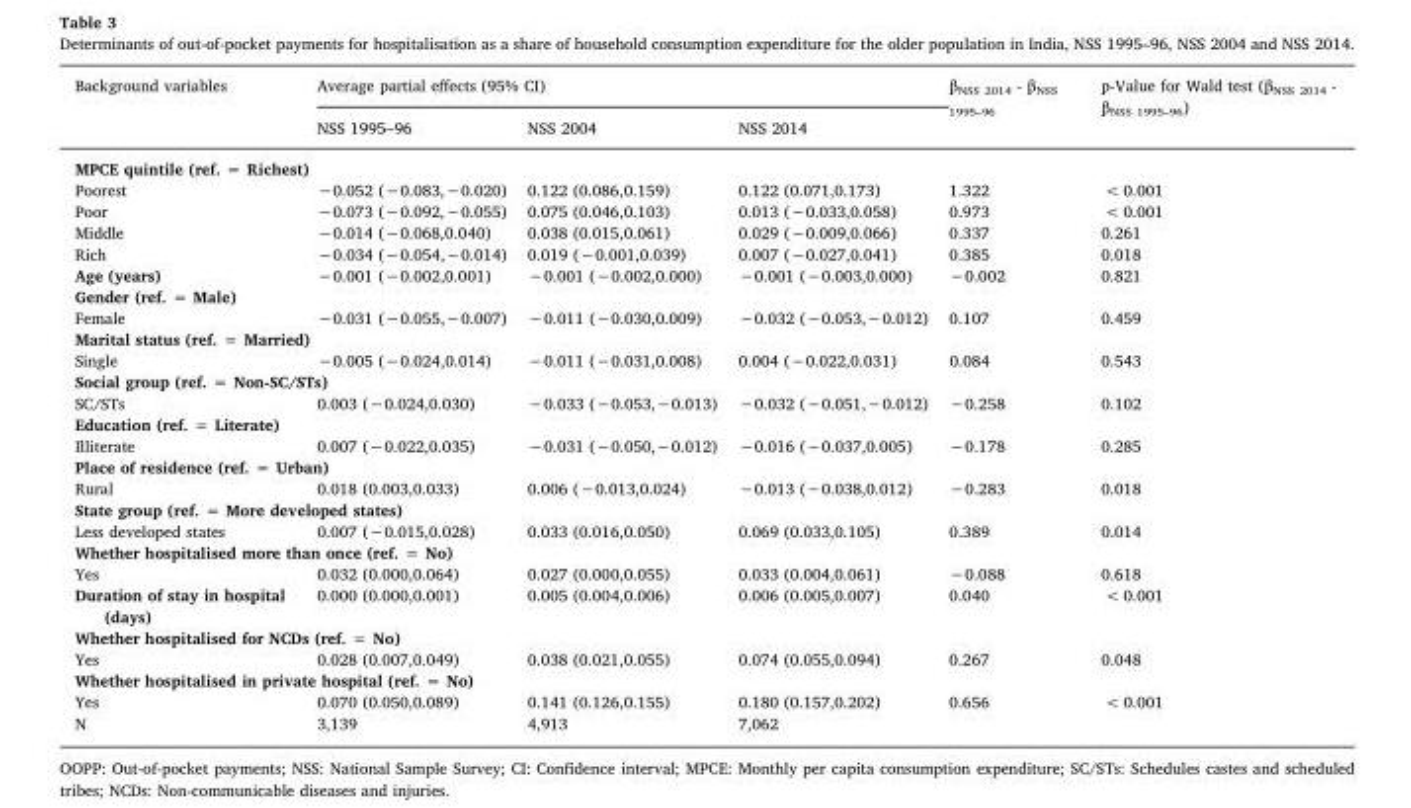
<table><thead><tr><td rowspan="2">Background variables</td><td colspan="3">Average partial effects (95% CI)</td><td rowspan="2">β<sub>NSS 2014</sub> - β<sub>NSS 1995–96</sub></td><td rowspan="2">p-Value for Wald test (β<sub>NSS 2014</sub> - β<sub>NSS 1995–96</sub>)</td></tr><tr><td>NSS 1995–96</td><td>NSS 2004</td><td>NSS 2014</td></tr></thead><tbody><tr><td colspan="6">MPCE quintile (ref. = Richest)</td></tr><tr><td>Poorest</td><td>−0.052 (−0.083,−0.020)</td><td>0.122 (0.086,0.159)</td><td>0.122 (0.071,0.173)</td><td>1.322</td><td>&lt; 0.001</td></tr><tr><td>Poor</td><td>−0.073 (−0.092,−0.055)</td><td>0.075 (0.046,0.103)</td><td>0.013 (−0.033,0.058)</td><td>0.973</td><td>&lt; 0.001</td></tr><tr><td>Middle</td><td>−0.014 (−0.068,0.040)</td><td>0.038 (0.015,0.061)</td><td>0.029 (−0.009,0.066)</td><td>0.337</td><td>0.261</td></tr><tr><td>Rich</td><td>−0.034 (−0.054,−0.014)</td><td>0.019 (−0.001,0.039)</td><td>0.007 (−0.027,0.041)</td><td>0.385</td><td>0.018</td></tr><tr><td>Age (years)</td><td>−0.001 (−0.002,0.001)</td><td>−0.001 (−0.002,0.000)</td><td>−0.001 (−0.003,0.000)</td><td>−0.002</td><td>0.821</td></tr><tr><td colspan="6">Gender (ref. = Male)</td></tr><tr><td>Female</td><td>−0.031 (−0.055,−0.007)</td><td>−0.011 (−0.030,0.009)</td><td>−0.032 (−0.053,−0.012)</td><td>0.107</td><td>0.459</td></tr><tr><td colspan="6">Marital status (ref. = Married)</td></tr><tr><td>Single</td><td>−0.005 (−0.024,0.014)</td><td>−0.011 (−0.031,0.008)</td><td>0.004 (−0.022,0.031)</td><td>0.084</td><td>0.543</td></tr><tr><td colspan="6">Social group (ref. = Non-SC/STs)</td></tr><tr><td>SC/STs</td><td>0.003 (−0.024,0.030)</td><td>−0.033 (−0.053,−0.013)</td><td>−0.032 (−0.051,−0.012)</td><td>−0.258</td><td>0.102</td></tr><tr><td colspan="6">Education (ref. = Literate)</td></tr><tr><td>Illiterate</td><td>0.007 (−0.022,0.035)</td><td>−0.031 (−0.050,−0.012)</td><td>−0.016 (−0.037,0.005)</td><td>−0.178</td><td>0.285</td></tr><tr><td colspan="6">Place of residence (ref. = Urban)</td></tr><tr><td>Rural</td><td>0.018 (0.003,0.033)</td><td>0.006 (−0.013,0.024)</td><td>−0.013 (−0.038,0.012)</td><td>−0.283</td><td>0.018</td></tr><tr><td colspan="6">State group (ref. = More developed states)</td></tr><tr><td>Less developed states</td><td>0.007 (−0.015,0.028)</td><td>0.033 (0.016,0.050)</td><td>0.069 (0.033,0.105)</td><td>0.389</td><td>0.014</td></tr><tr><td colspan="6">Whether hospitalised more than once (ref. = No)</td></tr><tr><td>Yes</td><td>0.032 (0.000,0.064)</td><td>0.027 (0.000,0.055)</td><td>0.033 (0.004,0.061)</td><td>−0.088</td><td>0.618</td></tr><tr><td>Duration of stay in hospital (days)</td><td>0.000 (0.000,0.001)</td><td>0.005 (0.004,0.006)</td><td>0.006 (0.005,0.007)</td><td>0.040</td><td>&lt; 0.001</td></tr><tr><td colspan="6">Whether hospitalised for NCDs (ref. = No)</td></tr><tr><td>Yes</td><td>0.028 (0.007,0.049)</td><td>0.038 (0.021,0.055)</td><td>0.074 (0.055,0.094)</td><td>0.267</td><td>0.048</td></tr><tr><td colspan="6">Whether hospitalised in private hospital (ref. = No)</td></tr><tr><td>Yes</td><td>0.070 (0.050,0.089)</td><td>0.141 (0.126,0.155)</td><td>0.180 (0.157,0.202)</td><td>0.656</td><td>&lt; 0.001</td></tr><tr><td>N</td><td>3,139</td><td>4,913</td><td>7,062</td><td></td><td></td></tr></tbody></table>